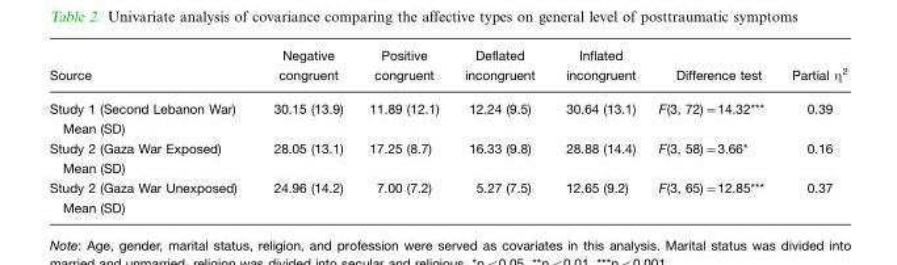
<table><thead><tr><td>Source</td><td>Negative congruent</td><td>Positive congruent</td><td>Deflated incongruent</td><td>Inflated incongruent</td><td>Difference test</td><td>Partial η<sup>2</sup></td></tr></thead><tbody><tr><td>Study 1 (Second Lebanon War) Mean (SD)</td><td>30.15 (13.9)</td><td>11.89 (12.1)</td><td>12.24 (9.5)</td><td>30.64 (13.1)</td><td>F(3, 72)=14.32***</td><td>0.39</td></tr><tr><td>Study 2 (Gaza War Exposed) Mean (SD)</td><td>28.05 (13.1)</td><td>17.25 (8.7)</td><td>16.33 (9.8)</td><td>28.88 (14.4)</td><td>F(3, 58)=3.66*</td><td>0.16</td></tr><tr><td>Study 2 (Gaza War Unexposed) Mean (SD)</td><td>24.96 (14.2)</td><td>7.00 (7.2)</td><td>5.27 (7.5)</td><td>12.65 (9.2)</td><td>F(3, 65)=12.85***</td><td>0.37</td></tr></tbody></table>